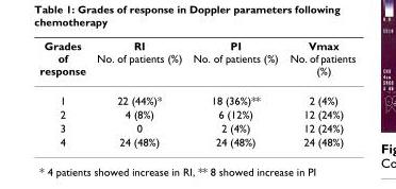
<table><thead><tr><td>Grades of response</td><td>RI No. of patients (%)</td><td>PI No. of patients (%)</td><td>Vmax No. of patients (%)</td></tr></thead><tbody><tr><td>1</td><td>22 (44%)*</td><td>18 (36%)**</td><td>2 (4%)</td></tr><tr><td>2</td><td>4 (8%)</td><td>6 (12%)</td><td>12 (24%)</td></tr><tr><td>3</td><td>0</td><td>2 (4%)</td><td>12 (24%)</td></tr><tr><td>4</td><td>24 (48%)</td><td>24 (48%)</td><td>24 (48%)</td></tr></tbody></table>